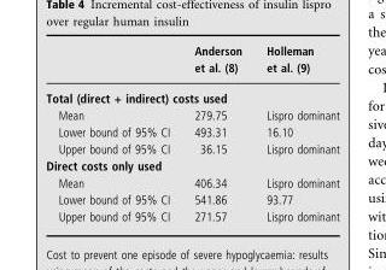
<table><thead><tr><td></td><td>Anderson et al. (8)</td><td>Holleman et al. (9)</td></tr></thead><tbody><tr><td colspan="3">Total (direct + indirect) costs used</td></tr><tr><td>Mean</td><td>279.75</td><td>Lispro dominant</td></tr><tr><td>Lower bound of 95% CI</td><td>493.31</td><td>16.10</td></tr><tr><td>Upper bound of 95% CI</td><td>36.15</td><td>Lispro dominant</td></tr><tr><td colspan="3">Direct costs only used</td></tr><tr><td>Mean</td><td>406.34</td><td>Lispro dominant</td></tr><tr><td>Lower bound of 95% CI</td><td>541.86</td><td>93.77</td></tr><tr><td>Upper bound of 95% CI</td><td>271.57</td><td>Lispro dominant</td></tr></tbody></table>